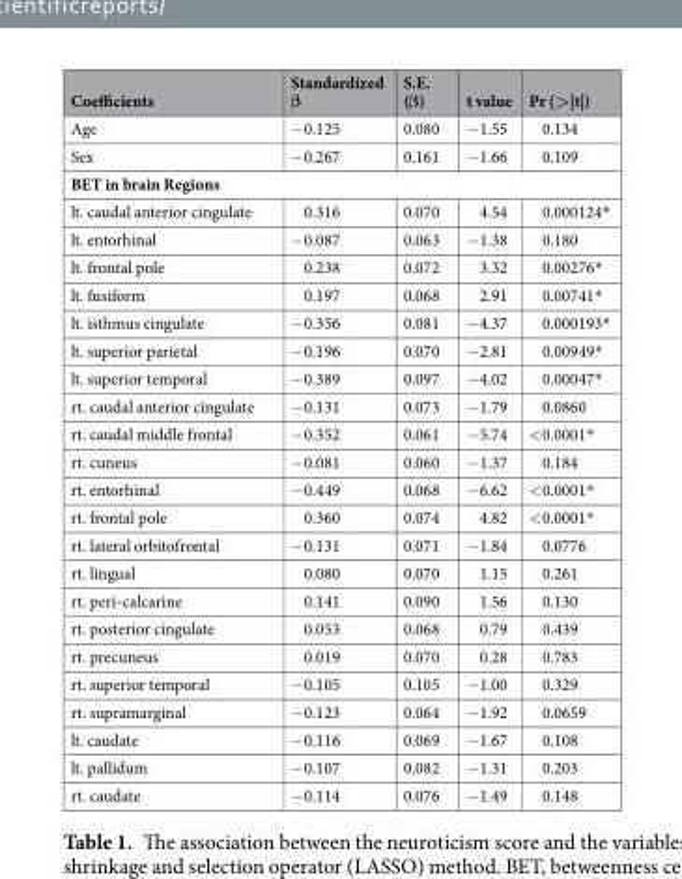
<table><thead><tr><td>Coefficients</td><td>Standardized β</td><td>S.E. (β)</td><td>t value</td><td>Pr (&gt;|t|)</td></tr></thead><tbody><tr><td>Age</td><td>−0.125</td><td>0.080</td><td>−1.55</td><td>0.134</td></tr><tr><td>Sex</td><td>−0.267</td><td>0.161</td><td>−1.66</td><td>0.109</td></tr><tr><td colspan="5">BET in brain Regions</td></tr><tr><td>lt. caudal anterior cingulate</td><td>0.316</td><td>0.070</td><td>4.54</td><td>0.000124*</td></tr><tr><td>lt. entorhinal</td><td>−0.087</td><td>0.063</td><td>−1.38</td><td>0.180</td></tr><tr><td>lt. frontal pole</td><td>0.238</td><td>0.072</td><td>3.32</td><td>0.00276*</td></tr><tr><td>lt. fusiform</td><td>0.197</td><td>0.068</td><td>2.91</td><td>0.00741*</td></tr><tr><td>lt. isthmus cingulate</td><td>−0.356</td><td>0.081</td><td>−4.37</td><td>0.000193*</td></tr><tr><td>lt. superior parietal</td><td>−0.196</td><td>0.070</td><td>−2.81</td><td>0.00949*</td></tr><tr><td>lt. superior temporal</td><td>−0.389</td><td>0.097</td><td>−4.02</td><td>0.00047*</td></tr><tr><td>rt. caudal anterior cingulate</td><td>−0.131</td><td>0.073</td><td>−1.79</td><td>0.0860</td></tr><tr><td>rt. caudal middle frontal</td><td>−0.352</td><td>0.061</td><td>−5.74</td><td>&lt;0.0001*</td></tr><tr><td>rt. cuneus</td><td>−0.081</td><td>0.060</td><td>−1.37</td><td>0.184</td></tr><tr><td>rt. entorhinal</td><td>−0.449</td><td>0.068</td><td>−6.62</td><td>&lt;0.0001*</td></tr><tr><td>rt. frontal pole</td><td>0.360</td><td>0.074</td><td>4.82</td><td>&lt;0.0001*</td></tr><tr><td>rt. lateral orbitofrontal</td><td>−0.131</td><td>0.071</td><td>−1.84</td><td>0.0776</td></tr><tr><td>rt. lingual</td><td>0.080</td><td>0.070</td><td>1.15</td><td>0.261</td></tr><tr><td>rt. peri-calcarine</td><td>0.141</td><td>0.090</td><td>1.56</td><td>0.130</td></tr><tr><td>rt. posterior cingulate</td><td>0.053</td><td>0.068</td><td>0.79</td><td>0.439</td></tr><tr><td>rt. precuneus</td><td>0.019</td><td>0.070</td><td>0.28</td><td>0.783</td></tr><tr><td>rt. superior temporal</td><td>−0.105</td><td>0.105</td><td>−1.00</td><td>0.329</td></tr><tr><td>rt. supramarginal</td><td>−0.123</td><td>0.064</td><td>−1.92</td><td>0.0659</td></tr><tr><td>lt. caudate</td><td>−0.116</td><td>0.069</td><td>−1.67</td><td>0.108</td></tr><tr><td>lt. pallidum</td><td>−0.107</td><td>0.082</td><td>−1.31</td><td>0.203</td></tr><tr><td>rt. caudate</td><td>−0.114</td><td>0.076</td><td>−1.49</td><td>0.148</td></tr></tbody></table>